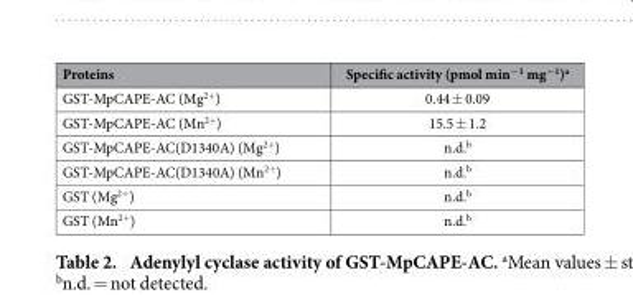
<table><thead><tr><td>Proteins</td><td>Specific activity (pmol min<sup>−1</sup> mg<sup>−1</sup>)<sup>a</sup></td></tr></thead><tbody><tr><td>GST-MpCAPE-AC (Mg<sup>2+</sup>)</td><td>0.44 ± 0.09</td></tr><tr><td>GST-MpCAPE-AC (Mn<sup>2+</sup>)</td><td>15.5 ± 1.2</td></tr><tr><td>GST-MpCAPE-AC(D1340A) (Mg<sup>2+</sup>)</td><td>n.d.<sup>b</sup></td></tr><tr><td>GST-MpCAPE-AC(D1340A) (Mn<sup>2+</sup>)</td><td>n.d.<sup>b</sup></td></tr><tr><td>GST (Mg<sup>2+</sup>)</td><td>n.d.<sup>b</sup></td></tr><tr><td>GST (Mn<sup>2+</sup>)</td><td>n.d.<sup>b</sup></td></tr></tbody></table>